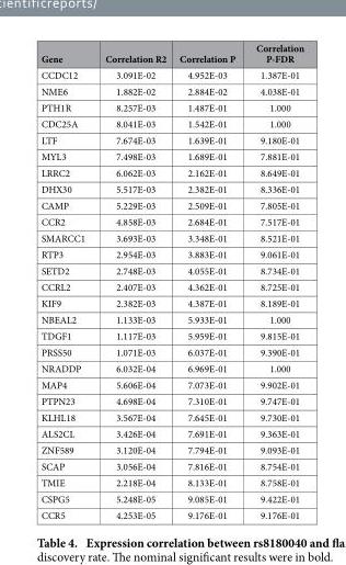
<table><thead><tr><td>Gene</td><td>Correlation R2</td><td>Correlation P</td><td>Correlation P-FDR</td></tr></thead><tbody><tr><td>CCDC12</td><td>3.091E-02</td><td>4.952E-03</td><td>1.387E-01</td></tr><tr><td>NME6</td><td>1.882E-02</td><td>2.884E-02</td><td>4.038E-01</td></tr><tr><td>PTH1R</td><td>8.257E-03</td><td>1.487E-01</td><td>1.000</td></tr><tr><td>CDC25A</td><td>8.041E-03</td><td>1.542E-01</td><td>1.000</td></tr><tr><td>LTF</td><td>7.674E-03</td><td>1.639E-01</td><td>9.180E-01</td></tr><tr><td>MYL3</td><td>7.498E-03</td><td>1.689E-01</td><td>7.881E-01</td></tr><tr><td>LRRC2</td><td>6.062E-03</td><td>2.162E-01</td><td>8.649E-01</td></tr><tr><td>DHX30</td><td>5.517E-03</td><td>2.382E-01</td><td>8.336E-01</td></tr><tr><td>CAMP</td><td>5.229E-03</td><td>2.509E-01</td><td>7.805E-01</td></tr><tr><td>CCR2</td><td>4.858E-03</td><td>2.684E-01</td><td>7.517E-01</td></tr><tr><td>SMARCC1</td><td>3.693E-03</td><td>3.348E-01</td><td>8.521E-01</td></tr><tr><td>RTP3</td><td>2.954E-03</td><td>3.883E-01</td><td>9.061E-01</td></tr><tr><td>SETD2</td><td>2.748E-03</td><td>4.055E-01</td><td>8.734E-01</td></tr><tr><td>CCRL2</td><td>2.407E-03</td><td>4.362E-01</td><td>8.725E-01</td></tr><tr><td>KIF9</td><td>2.382E-03</td><td>4.387E-01</td><td>8.189E-01</td></tr><tr><td>NBEAL2</td><td>1.133E-03</td><td>5.933E-01</td><td>1.000</td></tr><tr><td>TDGF1</td><td>1.117E-03</td><td>5.959E-01</td><td>9.815E-01</td></tr><tr><td>PRSS50</td><td>1.071E-03</td><td>6.037E-01</td><td>9.390E-01</td></tr><tr><td>NRADDP</td><td>6.032E-04</td><td>6.969E-01</td><td>1.000</td></tr><tr><td>MAP4</td><td>5.606E-04</td><td>7.073E-01</td><td>9.902E-01</td></tr><tr><td>PTPN23</td><td>4.698E-04</td><td>7.310E-01</td><td>9.747E-01</td></tr><tr><td>KLHL18</td><td>3.567E-04</td><td>7.645E-01</td><td>9.730E-01</td></tr><tr><td>ALS2CL</td><td>3.426E-04</td><td>7.691E-01</td><td>9.363E-01</td></tr><tr><td>ZNF589</td><td>3.120E-04</td><td>7.794E-01</td><td>9.093E-01</td></tr><tr><td>SCAP</td><td>3.056E-04</td><td>7.816E-01</td><td>8.754E-01</td></tr><tr><td>TMIE</td><td>2.218E-04</td><td>8.133E-01</td><td>8.758E-01</td></tr><tr><td>CSPG5</td><td>5.248E-05</td><td>9.085E-01</td><td>9.422E-01</td></tr><tr><td>CCR5</td><td>4.253E-05</td><td>9.176E-01</td><td>9.176E-01</td></tr></tbody></table>